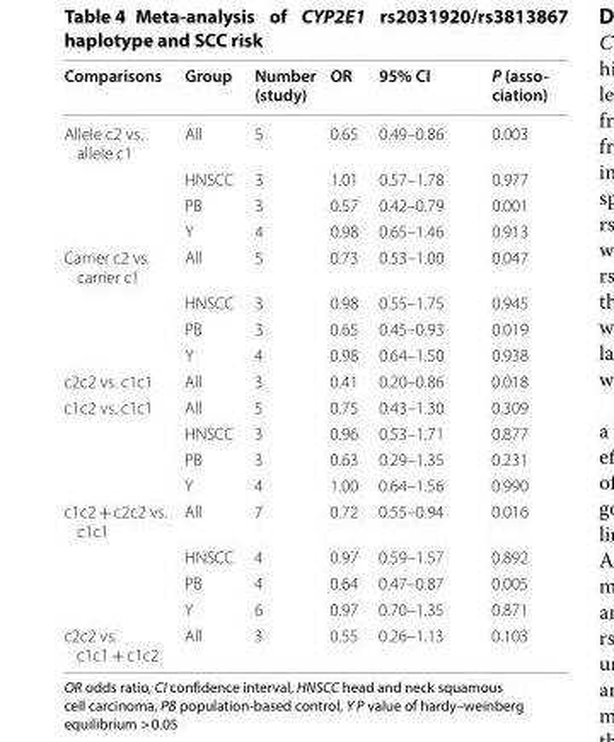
<table><thead><tr><td>Comparisons</td><td>Group</td><td>Number (study)</td><td>OR</td><td>95% CI</td><td>P (asso- ciation)</td></tr></thead><tbody><tr><td rowspan="4">Allele c2 vs. allele c1</td><td>All</td><td>5</td><td>0.65</td><td>0.49–0.86</td><td>0.003</td></tr><tr><td>HNSCC</td><td>3</td><td>1.01</td><td>0.57–1.78</td><td>0.977</td></tr><tr><td>PB</td><td>3</td><td>0.57</td><td>0.42–0.79</td><td>0.001</td></tr><tr><td>Y</td><td>4</td><td>0.98</td><td>0.65–1.46</td><td>0.913</td></tr><tr><td rowspan="4">Carrier c2 vs. carrier c1</td><td>All</td><td>5</td><td>0.73</td><td>0.53–1.00</td><td>0.047</td></tr><tr><td>HNSCC</td><td>3</td><td>0.98</td><td>0.55–1.75</td><td>0.945</td></tr><tr><td>PB</td><td>3</td><td>0.65</td><td>0.45–0.93</td><td>0.019</td></tr><tr><td>Y</td><td>4</td><td>0.98</td><td>0.64–1.50</td><td>0.938</td></tr><tr><td>c2c2 vs. c1c1</td><td>All</td><td>3</td><td>0.41</td><td>0.20–0.86</td><td>0.018</td></tr><tr><td rowspan="4">c1c2 vs. c1c1</td><td>All</td><td>5</td><td>0.75</td><td>0.43–1.30</td><td>0.309</td></tr><tr><td>HNSCC</td><td>3</td><td>0.96</td><td>0.53–1.71</td><td>0.877</td></tr><tr><td>PB</td><td>3</td><td>0.63</td><td>0.29–1.35</td><td>0.231</td></tr><tr><td>Y</td><td>4</td><td>1.00</td><td>0.64–1.56</td><td>0.990</td></tr><tr><td rowspan="4">c1c2 + c2c2 vs. c1c1</td><td>All</td><td>7</td><td>0.72</td><td>0.55–0.94</td><td>0.016</td></tr><tr><td>HNSCC</td><td>4</td><td>0.97</td><td>0.59–1.57</td><td>0.892</td></tr><tr><td>PB</td><td>4</td><td>0.64</td><td>0.47–0.87</td><td>0.005</td></tr><tr><td>Y</td><td>6</td><td>0.97</td><td>0.70–1.35</td><td>0.871</td></tr><tr><td>c2c2 vs. c1c1 + c1c2</td><td>All</td><td>3</td><td>0.55</td><td>0.26–1.13</td><td>0.103</td></tr></tbody></table>